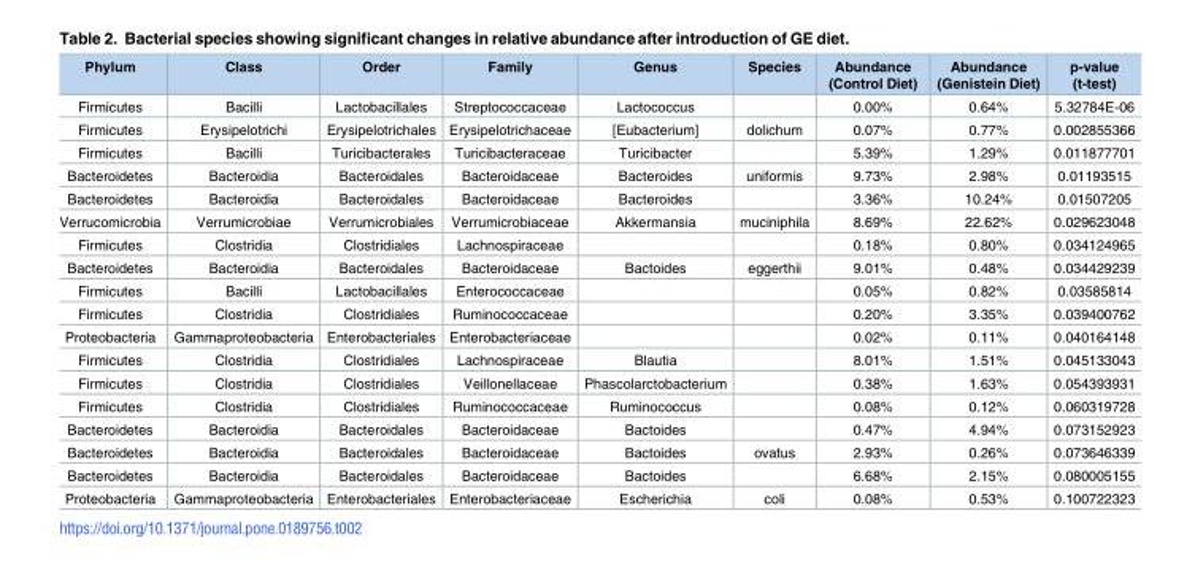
<table><thead><tr><td>Phylum</td><td>Class</td><td>Order</td><td>Family</td><td>Genus</td><td>Species</td><td>Abundance (Control Diet)</td><td>Abundance (Genistein Diet)</td><td>p-value (t-test)</td></tr></thead><tbody><tr><td>Firmicutes</td><td>Bacilli</td><td>Lactobacillales</td><td>Streptococcaceae</td><td>Lactococcus</td><td></td><td>0.00%</td><td>0.64%</td><td>5.32784E-06</td></tr><tr><td>Firmicutes</td><td>Erysipelotrichi</td><td>Erysipelotrichales</td><td>Erysipelotrichaceae</td><td>[Eubacterium]</td><td>dolichum</td><td>0.07%</td><td>0.77%</td><td>0.002855366</td></tr><tr><td>Firmicutes</td><td>Bacilli</td><td>Turicibacterales</td><td>Turicibacteraceae</td><td>Turicibacter</td><td></td><td>5.39%</td><td>1.29%</td><td>0.011877701</td></tr><tr><td>Bacteroidetes</td><td>Bacteroidia</td><td>Bacteroidales</td><td>Bacteroidaceae</td><td>Bacteroides</td><td>uniformis</td><td>9.73%</td><td>2.98%</td><td>0.01193515</td></tr><tr><td>Bacteroidetes</td><td>Bacteroidia</td><td>Bacteroidales</td><td>Bacteroidaceae</td><td>Bacteroides</td><td></td><td>3.36%</td><td>10.24%</td><td>0.01507205</td></tr><tr><td>Verrucomicrobia</td><td>Verrumicrobiae</td><td>Verrumicrobiales</td><td>Verrumicrobiaceae</td><td>Akkermansia</td><td>muciniphila</td><td>8.69%</td><td>22.62%</td><td>0.029623048</td></tr><tr><td>Firmicutes</td><td>Clostridia</td><td>Clostridiales</td><td>Lachnospiraceae</td><td></td><td></td><td>0.18%</td><td>0.80%</td><td>0.034124965</td></tr><tr><td>Bacteroidetes</td><td>Bacteroidia</td><td>Bacteroidales</td><td>Bacteroidaceae</td><td>Bactoides</td><td>eggerthii</td><td>9.01%</td><td>0.48%</td><td>0.034429239</td></tr><tr><td>Firmicutes</td><td>Bacilli</td><td>Lactobacillales</td><td>Enterococcaceae</td><td></td><td></td><td>0.05%</td><td>0.82%</td><td>0.03585814</td></tr><tr><td>Firmicutes</td><td>Clostridia</td><td>Clostridiales</td><td>Ruminococcaceae</td><td></td><td></td><td>0.20%</td><td>3.35%</td><td>0.039400762</td></tr><tr><td>Proteobacteria</td><td>Gammaproteobacteria</td><td>Enterobacteriales</td><td>Enterobacteriaceae</td><td></td><td></td><td>0.02%</td><td>0.11%</td><td>0.040164148</td></tr><tr><td>Firmicutes</td><td>Clostridia</td><td>Clostridiales</td><td>Lachnospiraceae</td><td>Blautia</td><td></td><td>8.01%</td><td>1.51%</td><td>0.045133043</td></tr><tr><td>Firmicutes</td><td>Clostridia</td><td>Clostridiales</td><td>Veillonellaceae</td><td>Phascolarctobacterium</td><td></td><td>0.38%</td><td>1.63%</td><td>0.054393931</td></tr><tr><td>Firmicutes</td><td>Clostridia</td><td>Clostridiales</td><td>Ruminococcaceae</td><td>Ruminococcus</td><td></td><td>0.08%</td><td>0.12%</td><td>0.060319728</td></tr><tr><td>Bacteroidetes</td><td>Bacteroidia</td><td>Bacteroidales</td><td>Bacteroidaceae</td><td>Bactoides</td><td></td><td>0.47%</td><td>4.94%</td><td>0.073152923</td></tr><tr><td>Bacteroidetes</td><td>Bacteroidia</td><td>Bacteroidales</td><td>Bacteroidaceae</td><td>Bactoides</td><td>ovatus</td><td>2.93%</td><td>0.26%</td><td>0.073646339</td></tr><tr><td>Bacteroidetes</td><td>Bacteroidia</td><td>Bacteroidales</td><td>Bacteroidaceae</td><td>Bactoides</td><td></td><td>6.68%</td><td>2.15%</td><td>0.080005155</td></tr><tr><td>Proteobacteria</td><td>Gammaproteobacteria</td><td>Enterobacteriales</td><td>Enterobacteriaceae</td><td>Escherichia</td><td>coli</td><td>0.08%</td><td>0.53%</td><td>0.100722323</td></tr></tbody></table>